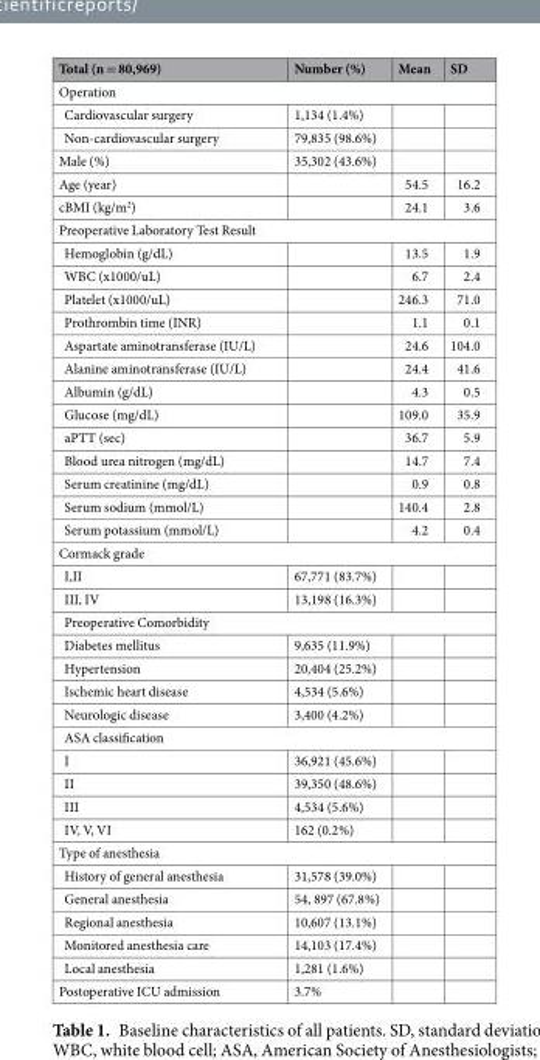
<table><thead><tr><td>Total (n = 80,969)</td><td>Number (%)</td><td>Mean</td><td>SD</td></tr></thead><tbody><tr><td colspan="4">Operation</td></tr><tr><td>Cardiovascular surgery</td><td>1,134 (1.4%)</td><td></td><td></td></tr><tr><td>Non-cardiovascular surgery</td><td>79,835 (98.6%)</td><td></td><td></td></tr><tr><td>Male (%)</td><td>35,302 (43.6%)</td><td></td><td></td></tr><tr><td>Age (year)</td><td></td><td>54.5</td><td>16.2</td></tr><tr><td>cBMI (kg/m<sup>2</sup>)</td><td></td><td>24.1</td><td>3.6</td></tr><tr><td colspan="4">Preoperative Laboratory Test Result</td></tr><tr><td>Hemoglobin (g/dL)</td><td></td><td>13.5</td><td>1.9</td></tr><tr><td>WBC (x1000/uL)</td><td></td><td>6.7</td><td>2.4</td></tr><tr><td>Platelet (x1000/uL)</td><td></td><td>246.3</td><td>71.0</td></tr><tr><td>Prothrombin time (INR)</td><td></td><td>1.1</td><td>0.1</td></tr><tr><td>Aspartate aminotransferase (IU/L)</td><td></td><td>24.6</td><td>104.0</td></tr><tr><td>Alanine aminotransferase (IU/L)</td><td></td><td>24.4</td><td>41.6</td></tr><tr><td>Albumin (g/dL)</td><td></td><td>4.3</td><td>0.5</td></tr><tr><td>Glucose (mg/dL)</td><td></td><td>109.0</td><td>35.9</td></tr><tr><td>aPTT (sec)</td><td></td><td>36.7</td><td>5.9</td></tr><tr><td>Blood urea nitrogen (mg/dL)</td><td></td><td>14.7</td><td>7.4</td></tr><tr><td>Serum creatinine (mg/dL)</td><td></td><td>0.9</td><td>0.8</td></tr><tr><td>Serum sodium (mmol/L)</td><td></td><td>140.4</td><td>2.8</td></tr><tr><td>Serum potassium (mmol/L)</td><td></td><td>4.2</td><td>0.4</td></tr><tr><td colspan="4">Cormack grade</td></tr><tr><td>I,II</td><td>67,771 (83.7%)</td><td></td><td></td></tr><tr><td>III, IV</td><td>13,198 (16.3%)</td><td></td><td></td></tr><tr><td colspan="4">Preoperative Comorbidity</td></tr><tr><td>Diabetes mellitus</td><td>9,635 (11.9%)</td><td></td><td></td></tr><tr><td>Hypertension</td><td>20,404 (25.2%)</td><td></td><td></td></tr><tr><td>Ischemic heart disease</td><td>4,534 (5.6%)</td><td></td><td></td></tr><tr><td>Neurologic disease</td><td>3,400 (4.2%)</td><td></td><td></td></tr><tr><td colspan="4">ASA classification</td></tr><tr><td>I</td><td>36,921 (45.6%)</td><td></td><td></td></tr><tr><td>II</td><td>39,350 (48.6%)</td><td></td><td></td></tr><tr><td>III</td><td>4,534 (5.6%)</td><td></td><td></td></tr><tr><td>IV, V, VI</td><td>162 (0.2%)</td><td></td><td></td></tr><tr><td colspan="4">Type of anesthesia</td></tr><tr><td>History of general anesthesia</td><td>31,578 (39.0%)</td><td></td><td></td></tr><tr><td>General anesthesia</td><td>54, 897 (67.8%)</td><td></td><td></td></tr><tr><td>Regional anesthesia</td><td>10,607 (13.1%)</td><td></td><td></td></tr><tr><td>Monitored anesthesia care</td><td>14,103 (17.4%)</td><td></td><td></td></tr><tr><td>Local anesthesia</td><td>1,281 (1.6%)</td><td></td><td></td></tr><tr><td>Postoperative ICU admission</td><td>3.7%</td><td></td><td></td></tr></tbody></table>